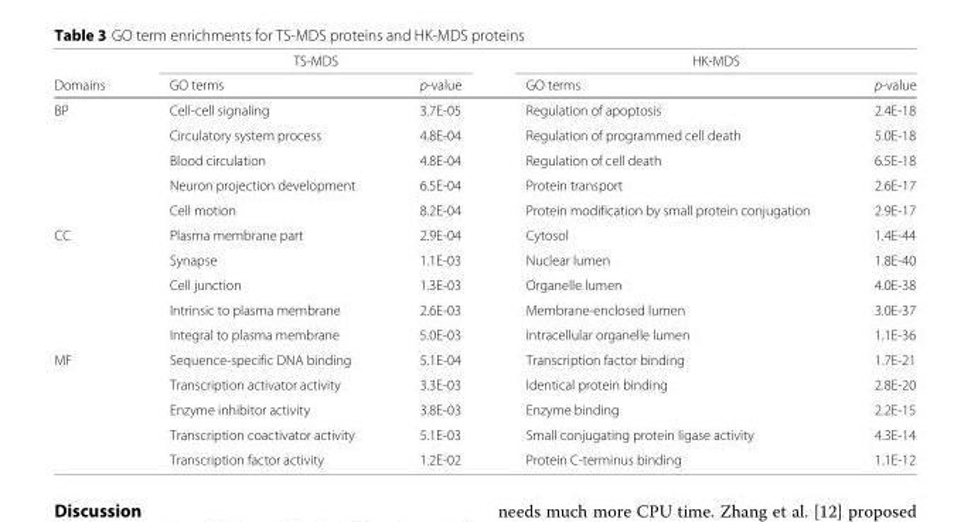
<table><thead><tr><td rowspan="2">Domains</td><td colspan="2">TS-MDS</td><td colspan="2">HK-MDS</td></tr><tr><td>GO terms</td><td>p-value</td><td>GO terms</td><td>p-value</td></tr></thead><tbody><tr><td rowspan="5">BP</td><td>Cell-cell signaling</td><td>3.7E-05</td><td>Regulation of apoptosis</td><td>2.4E-18</td></tr><tr><td>Circulatory system process</td><td>4.8E-04</td><td>Regulation of programmed cell death</td><td>5.0E-18</td></tr><tr><td>Blood circulation</td><td>4.8E-04</td><td>Regulation of cell death</td><td>6.5E-18</td></tr><tr><td>Neuron projection development</td><td>6.5E-04</td><td>Protein transport</td><td>2.6E-17</td></tr><tr><td>Cell motion</td><td>8.2E-04</td><td>Protein modification by small protein conjugation</td><td>2.9E-17</td></tr><tr><td rowspan="5">CC</td><td>Plasma membrane part</td><td>2.9E-04</td><td>Cytosol</td><td>1.4E-44</td></tr><tr><td>Synapse</td><td>1.1E-03</td><td>Nuclear lumen</td><td>1.8E-40</td></tr><tr><td>Cell junction</td><td>1.3E-03</td><td>Organelle lumen</td><td>4.0E-38</td></tr><tr><td>Intrinsic to plasma membrane</td><td>2.6E-03</td><td>Membrane-enclosed lumen</td><td>3.0E-37</td></tr><tr><td>Integral to plasma membrane</td><td>5.0E-03</td><td>Intracellular organelle lumen</td><td>1.1E-36</td></tr><tr><td rowspan="5">MF</td><td>Sequence-specific DNA binding</td><td>5.1E-04</td><td>Transcription factor binding</td><td>1.7E-21</td></tr><tr><td>Transcription activator activity</td><td>3.3E-03</td><td>Identical protein binding</td><td>2.8E-20</td></tr><tr><td>Enzyme inhibitor activity</td><td>3.8E-03</td><td>Enzyme binding</td><td>2.2E-15</td></tr><tr><td>Transcription coactivator activity</td><td>5.1E-03</td><td>Small conjugating protein ligase activity</td><td>4.3E-14</td></tr><tr><td>Transcription factor activity</td><td>1.2E-02</td><td>Protein C-terminus binding</td><td>1.1E-12</td></tr></tbody></table>